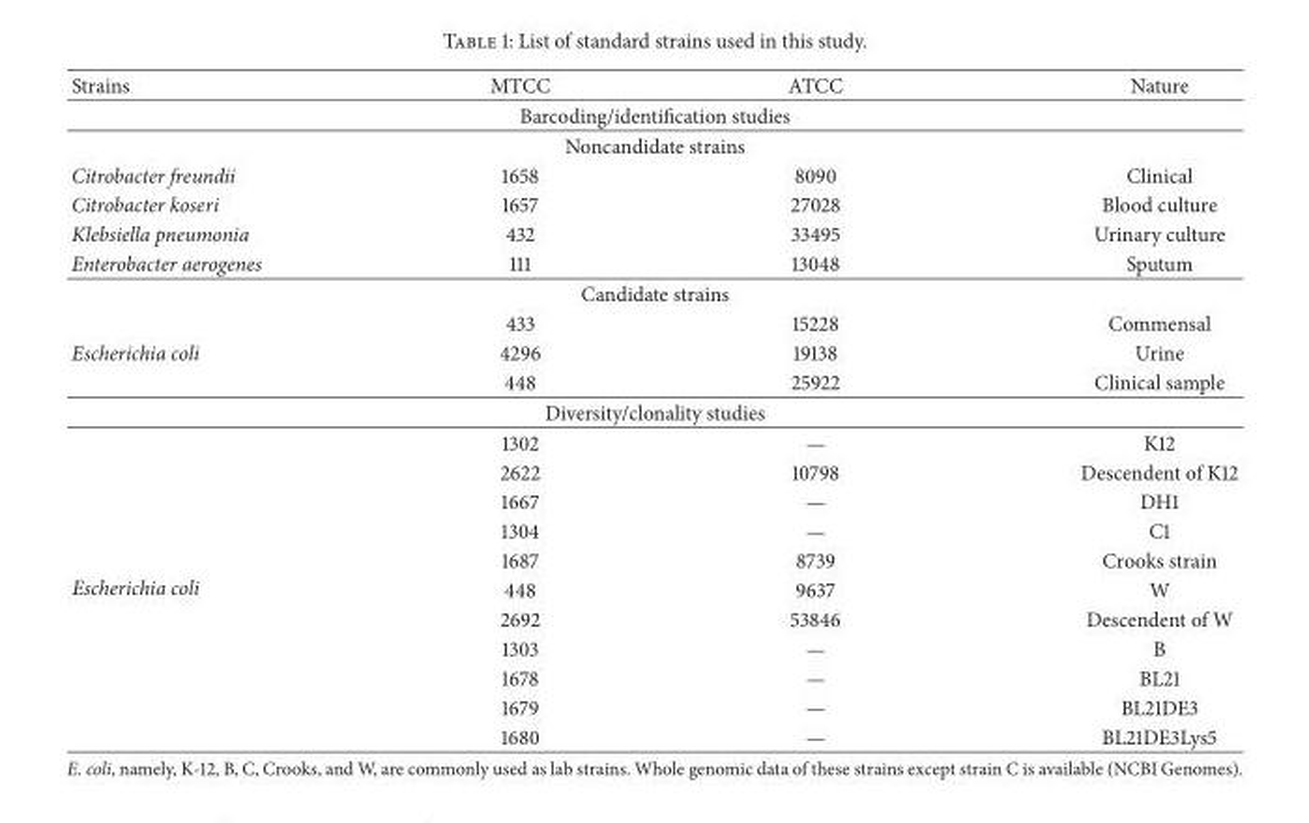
<table><thead><tr><td>Strains</td><td>MTCC</td><td>ATCC</td><td>Nature</td></tr></thead><tbody><tr><td colspan="4">Barcoding/identification studies</td></tr><tr><td colspan="4">Noncandidate strains</td></tr><tr><td>Citrobacter freundii</td><td>1658</td><td>8090</td><td>Clinical</td></tr><tr><td>Citrobacter koseri</td><td>1657</td><td>27028</td><td>Blood culture</td></tr><tr><td>Klebsiella pneumonia</td><td>432</td><td>33495</td><td>Urinary culture</td></tr><tr><td>Enterobacter aerogenes</td><td>111</td><td>13048</td><td>Sputum</td></tr><tr><td colspan="4">Candidate strains</td></tr><tr><td></td><td>433</td><td>15228</td><td>Commensal</td></tr><tr><td rowspan="2">Escherichia coli</td><td>4296</td><td>19138</td><td>Urine</td></tr><tr><td>448</td><td>25922</td><td>Clinical sample</td></tr><tr><td colspan="4">Diversity/clonality studies</td></tr><tr><td rowspan="11">Escherichia coli</td><td>1302</td><td>—</td><td>K12</td></tr><tr><td>2622</td><td>10798</td><td>Descendent of K12</td></tr><tr><td>1667</td><td>—</td><td>DH1</td></tr><tr><td>1304</td><td>—</td><td>C1</td></tr><tr><td>1687</td><td>8739</td><td>Crooks strain</td></tr><tr><td>448</td><td>9637</td><td>W</td></tr><tr><td>2692</td><td>53846</td><td>Descendent of W</td></tr><tr><td>1303</td><td>—</td><td>B</td></tr><tr><td>1678</td><td>—</td><td>BL21</td></tr><tr><td>1679</td><td>—</td><td>BL21DE3</td></tr><tr><td>1680</td><td>—</td><td>BL21DE3Lys5</td></tr></tbody></table>